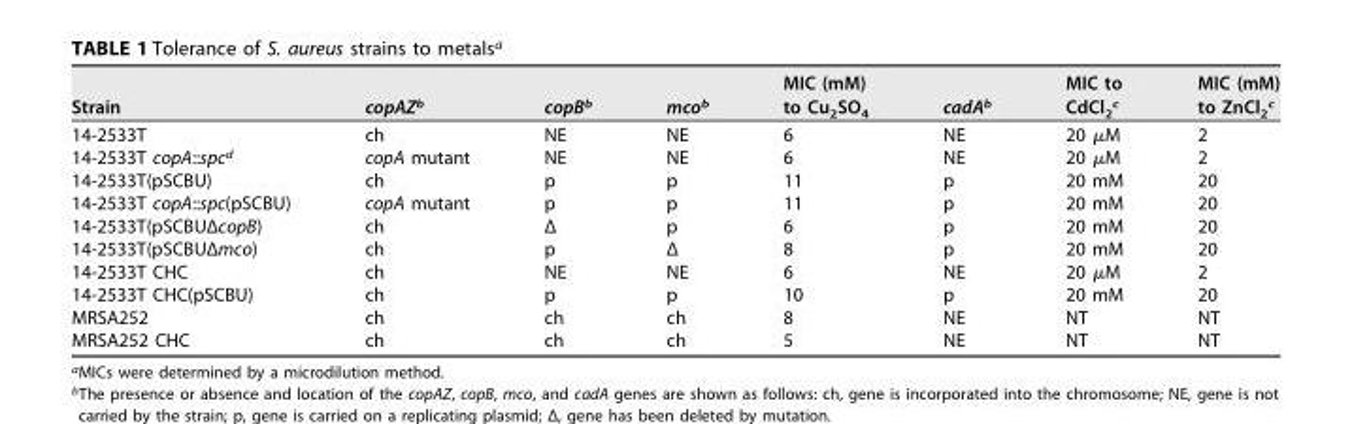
<table><thead><tr><td>Strain</td><td>copAZ<sup>b</sup></td><td>copB<sup>b</sup></td><td>mco<sup>b</sup></td><td>MIC (mM) to Cu<sub>2</sub>SO<sub>4</sub></td><td>cadA<sup>b</sup></td><td>MIC to CdCl<sub>2</sub><sup>c</sup></td><td>MIC (mM) to ZnCl<sub>2</sub><sup>c</sup></td></tr></thead><tbody><tr><td>14-2533T</td><td>ch</td><td>NE</td><td>NE</td><td>6</td><td>NE</td><td>20 µM</td><td>2</td></tr><tr><td>14-2533T copA::spc<sup>d</sup></td><td>copA mutant</td><td>NE</td><td>NE</td><td>6</td><td>NE</td><td>20 µM</td><td>2</td></tr><tr><td>14-2533T(pSCBU)</td><td>ch</td><td>p</td><td>p</td><td>11</td><td>p</td><td>20 mM</td><td>20</td></tr><tr><td>14-2533T copA::spc(pSCBU)</td><td>copA mutant</td><td>p</td><td>p</td><td>11</td><td>p</td><td>20 mM</td><td>20</td></tr><tr><td>14-2533T(pSCBUΔcopB)</td><td>ch</td><td>Δ</td><td>p</td><td>6</td><td>p</td><td>20 mM</td><td>20</td></tr><tr><td>14-2533T(pSCBUΔmco)</td><td>ch</td><td>p</td><td>Δ</td><td>8</td><td>p</td><td>20 mM</td><td>20</td></tr><tr><td>14-2533T CHC</td><td>ch</td><td>NE</td><td>NE</td><td>6</td><td>NE</td><td>20 µM</td><td>2</td></tr><tr><td>14-2533T CHC(pSCBU)</td><td>ch</td><td>p</td><td>p</td><td>10</td><td>p</td><td>20 mM</td><td>20</td></tr><tr><td>MRSA252</td><td>ch</td><td>ch</td><td>ch</td><td>8</td><td>NE</td><td>NT</td><td>NT</td></tr><tr><td>MRSA252 CHC</td><td>ch</td><td>ch</td><td>ch</td><td>5</td><td>NE</td><td>NT</td><td>NT</td></tr></tbody></table>